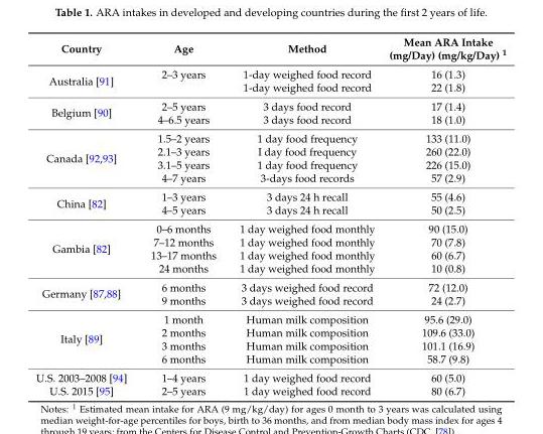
<table><thead><tr><td>Country</td><td>Age</td><td>Method</td><td>Mean ARA Intake (mg/Day) (mg/kg/Day) <sup>1</sup></td></tr></thead><tbody><tr><td rowspan="2">Australia [91]</td><td>2–3 years</td><td>1-day weighed food record</td><td>16 (1.3)</td></tr><tr><td></td><td>1-day weighed food record</td><td>22 (1.8)</td></tr><tr><td rowspan="2">Belgium [90]</td><td>2–5 years</td><td>3 days food record</td><td>17 (1.4)</td></tr><tr><td>4–6.5 years</td><td>3 days food record</td><td>18 (1.0)</td></tr><tr><td rowspan="4">Canada [92,93]</td><td>1.5–2 years</td><td>1 day food frequency</td><td>133 (11.0)</td></tr><tr><td>2.1–3 years</td><td>I day food frequency</td><td>260 (22.0)</td></tr><tr><td>3.1–5 years</td><td>1 day food frequency</td><td>226 (15.0)</td></tr><tr><td>4–7 years</td><td>3-days food records</td><td>57 (2.9)</td></tr><tr><td rowspan="2">China [82]</td><td>1–3 years</td><td>3 days 24 h recall</td><td>55 (4.6)</td></tr><tr><td>4–5 years</td><td>3 days 24 h recall</td><td>50 (2.5)</td></tr><tr><td rowspan="4">Gambia [82]</td><td>0–6 months</td><td>1 day weighed food monthly</td><td>90 (15.0)</td></tr><tr><td>7–12 months</td><td>1 day weighed food monthly</td><td>70 (7.8)</td></tr><tr><td>13–17 months</td><td>1 day weighed food monthly</td><td>60 (6.7)</td></tr><tr><td>24 months</td><td>1 day weighed food monthly</td><td>10 (0.8)</td></tr><tr><td rowspan="2">Germany [87,88]</td><td>6 months</td><td>3 days weighed food record</td><td>72 (12.0)</td></tr><tr><td>9 months</td><td>3 days weighed food record</td><td>24 (2.7)</td></tr><tr><td rowspan="4">Italy [89]</td><td>1 month</td><td>Human milk composition</td><td>95.6 (29.0)</td></tr><tr><td>2 months</td><td>Human milk composition</td><td>109.6 (33.0)</td></tr><tr><td>3 months</td><td>Human milk composition</td><td>101.1 (16.9)</td></tr><tr><td>6 months</td><td>Human milk composition</td><td>58.7 (9.8)</td></tr><tr><td>U.S. 2003–2008 [94]</td><td>1–4 years</td><td>1 day weighed food record</td><td>60 (5.0)</td></tr><tr><td>U.S. 2015 [95]</td><td>2–5 years</td><td>1 day weighed food record</td><td>80 (6.7)</td></tr></tbody></table>